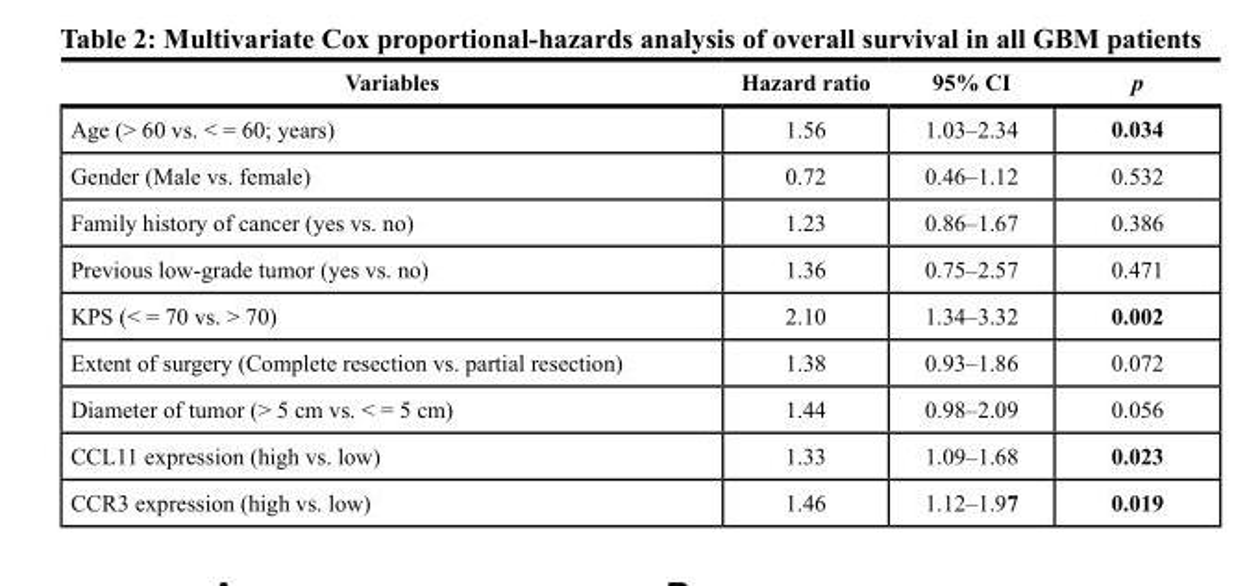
<table><thead><tr><td>Variables</td><td>Hazard ratio</td><td>95% CI</td><td>p</td></tr></thead><tbody><tr><td>Age (&gt; 60 vs. &lt; = 60; years)</td><td>1.56</td><td>1.03–2.34</td><td>0.034</td></tr><tr><td>Gender (Male vs. female)</td><td>0.72</td><td>0.46–1.12</td><td>0.532</td></tr><tr><td>Family history of cancer (yes vs. no)</td><td>1.23</td><td>0.86–1.67</td><td>0.386</td></tr><tr><td>Previous low-grade tumor (yes vs. no)</td><td>1.36</td><td>0.75–2.57</td><td>0.471</td></tr><tr><td>KPS (&lt; = 70 vs. &gt; 70)</td><td>2.10</td><td>1.34–3.32</td><td>0.002</td></tr><tr><td>Extent of surgery (Complete resection vs. partial resection)</td><td>1.38</td><td>0.93–1.86</td><td>0.072</td></tr><tr><td>Diameter of tumor (&gt; 5 cm vs. &lt; = 5 cm)</td><td>1.44</td><td>0.98–2.09</td><td>0.056</td></tr><tr><td>CCL11 expression (high vs. low)</td><td>1.33</td><td>1.09–1.68</td><td>0.023</td></tr><tr><td>CCR3 expression (high vs. low)</td><td>1.46</td><td>1.12–1.97</td><td>0.019</td></tr></tbody></table>